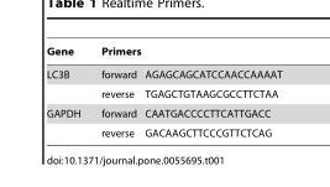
<table><thead><tr><td rowspan="2">Gene LC3B</td><td colspan="2">Primers</td></tr><tr><td>forward</td><td>AGAGCAGCATCCAACCAAAAT</td></tr></thead><tbody><tr><td></td><td>reverse</td><td>TGAGCTGTAAGCGCCTTCTAA</td></tr><tr><td rowspan="2">GAPDH</td><td>forward</td><td>CAATGACCCCTTCATTGACC</td></tr><tr><td>reverse</td><td>GACAAGCTTCCCGTTCTCAG</td></tr></tbody></table>